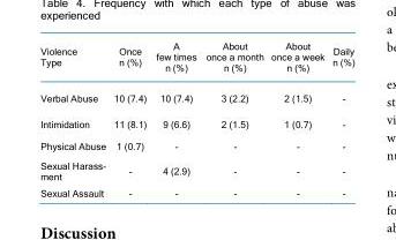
<table><thead><tr><td>Violence Type</td><td>Once n (%)</td><td>A few times n (%)</td><td>About once a month n (%)</td><td>About once a week n (%)</td><td>Daily n (%)</td></tr></thead><tbody><tr><td>Verbal Abuse</td><td>10 (7.4)</td><td>10 (7.4)</td><td>3 (2.2)</td><td>2 (1.5)</td><td>-</td></tr><tr><td>Intimidation</td><td>11 (8.1)</td><td>9 (6.6)</td><td>2 (1.5)</td><td>1 (0.7)</td><td>-</td></tr><tr><td>Physical Abuse</td><td>1 (0.7)</td><td>-</td><td>-</td><td>-</td><td>-</td></tr><tr><td>Sexual Harass- ment</td><td>-</td><td>4 (2.9)</td><td>-</td><td>-</td><td>-</td></tr><tr><td>Sexual Assault</td><td>-</td><td>-</td><td>-</td><td>-</td><td>-</td></tr></tbody></table>